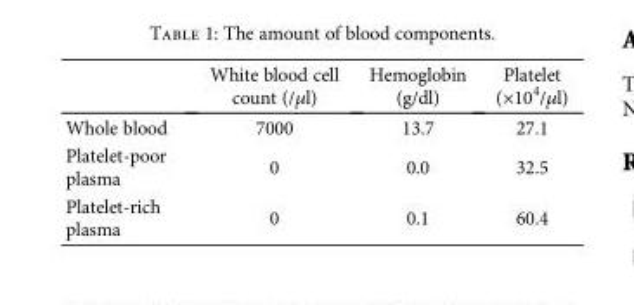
<table><thead><tr><td></td><td>White blood cell count (/μl)</td><td>Hemoglobin (g/dl)</td><td>Platelet (×10<sup>4</sup>/μl)</td></tr></thead><tbody><tr><td>Whole blood</td><td>7000</td><td>13.7</td><td>27.1</td></tr><tr><td>Platelet-poor plasma</td><td>0</td><td>0.0</td><td>32.5</td></tr><tr><td>Platelet-rich plasma</td><td>0</td><td>0.1</td><td>60.4</td></tr></tbody></table>